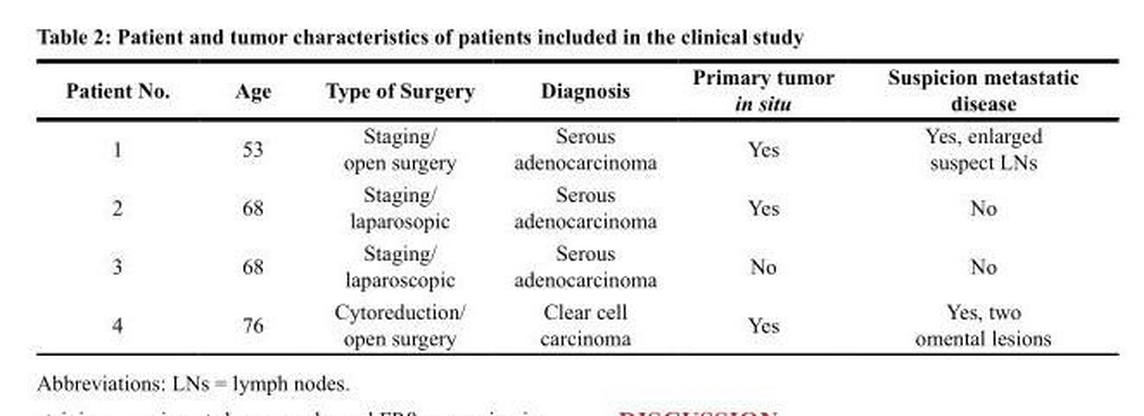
<table><thead><tr><td>Patient No.</td><td>Age</td><td>Type of Surgery</td><td>Diagnosis</td><td>Primary tumor in situ</td><td>Suspicion metastatic disease</td></tr></thead><tbody><tr><td>1</td><td>53</td><td>Staging/ open surgery</td><td>Serous adenocarcinoma</td><td>Yes</td><td>Yes, enlarged suspect LNs</td></tr><tr><td>2</td><td>68</td><td>Staging/ laparosopic</td><td>Serous adenocarcinoma</td><td>Yes</td><td>No</td></tr><tr><td>3</td><td>68</td><td>Staging/ laparoscopic</td><td>Serous adenocarcinoma</td><td>No</td><td>No</td></tr><tr><td>4</td><td>76</td><td>Cytoreduction/ open surgery</td><td>Clear cell carcinoma</td><td>Yes</td><td>Yes, two omental lesions</td></tr></tbody></table>